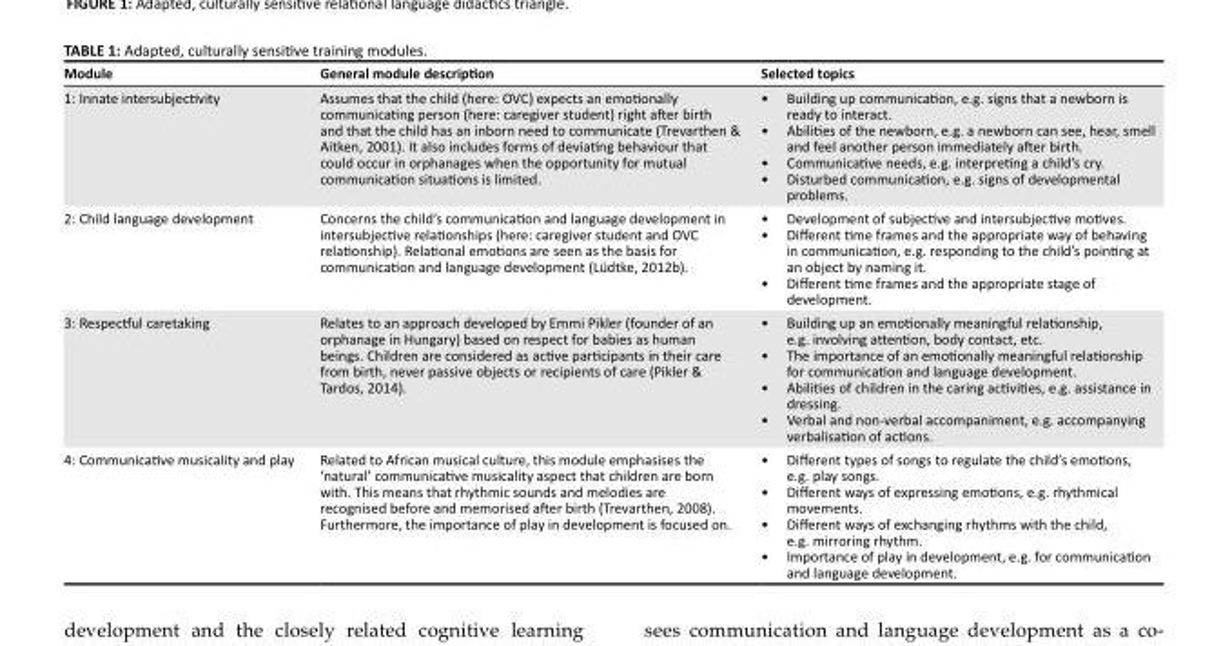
<table><thead><tr><td>Module</td><td>General module description</td><td>Selected topics</td></tr></thead><tbody><tr><td>1: Innate intersubjectivity</td><td>Assumes that the child (here: OVC) expects an emotionally communicating person (here: caregiver student) right after birth and that the child has an inborn need to communicate (Trevarthen &amp; Aitken, 2001). It also includes forms of deviating behaviour that could occur in orphanages when the opportunity for mutual communication situations is limited.</td><td>• Building up communication, e.g. signs that a newborn is ready to interact. • Abilities of the newborn, e.g. a newborn can see, hear, smell and feel another person immediately after birth. • Communicative needs, e.g. interpreting a child’s cry. • Disturbed communication, e.g. signs of developmental problems.</td></tr><tr><td>2: Child language development</td><td>Concerns the child’s communication and language development in intersubjective relationships (here: caregiver student and OVC relationship). Relational emotions are seen as the basis for communication and language development (Lüdtke, 2012b).</td><td>• Development of subjective and intersubjective motives. • Different time frames and the appropriate way of behaving in communication, e.g. responding to the child’s pointing at an object by naming it. • Different time frames and the appropriate stage of development.</td></tr><tr><td>3: Respectful caretaking</td><td>Relates to an approach developed by Emmi Pikler (founder of an orphanage in Hungary) based on respect for babies as human beings. Children are considered as active participants in their care from birth, never passive objects or recipients of care (Pikler &amp; Tardos, 2014).</td><td>• Building up an emotionally meaningful relationship, e.g. involving attention, body contact, etc. • The importance of an emotionally meaningful relationship for communication and language development. • Abilities of children in the caring activities, e.g. assistance in dressing. • Verbal and non-verbal accompaniment, e.g. accompanying verbalisation of actions.</td></tr><tr><td>4: Communicative musicality and play</td><td>Related to African musical culture, this module emphasises the ‘natural’ communicative musicality aspect that children are born with. This means that rhythmic sounds and melodies are recognised before and memorised after birth (Trevarthen, 2008). Furthermore, the importance of play in development is focused on.</td><td>• Different types of songs to regulate the child’s emotions, e.g. play songs. • Different ways of expressing emotions, e.g. rhythmical movements. • Different ways of exchanging rhythms with the child, e.g. mirroring rhythm. • Importance of play in development, e.g. for communication and language development.</td></tr></tbody></table>